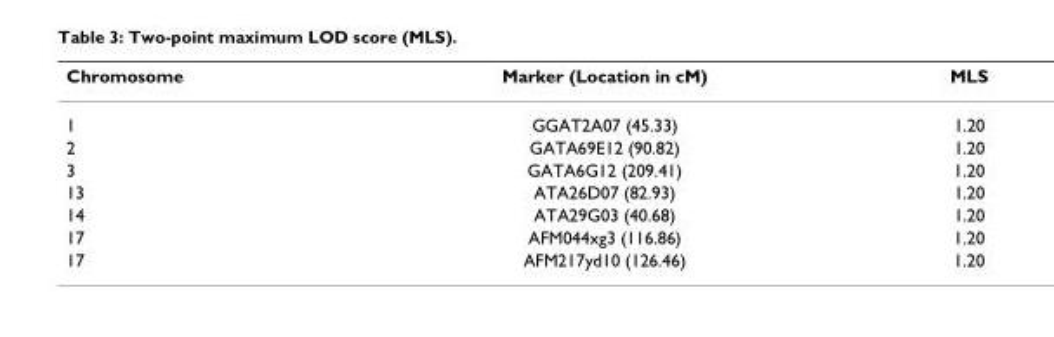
<table><thead><tr><td>Chromosome</td><td>Marker (Location in cM)</td><td>MLS</td></tr></thead><tbody><tr><td>1</td><td>GGAT2A07 (45.33)</td><td>1.20</td></tr><tr><td>2</td><td>GATA69E12 (90.82)</td><td>1.20</td></tr><tr><td>3</td><td>GATA6G12 (209.41)</td><td>1.20</td></tr><tr><td>13</td><td>ATA26D07 (82.93)</td><td>1.20</td></tr><tr><td>14</td><td>ATA29G03 (40.68)</td><td>1.20</td></tr><tr><td>17</td><td>AFM044xg3 (116.86)</td><td>1.20</td></tr><tr><td>17</td><td>AFM217yd10 (126.46)</td><td>1.20</td></tr></tbody></table>